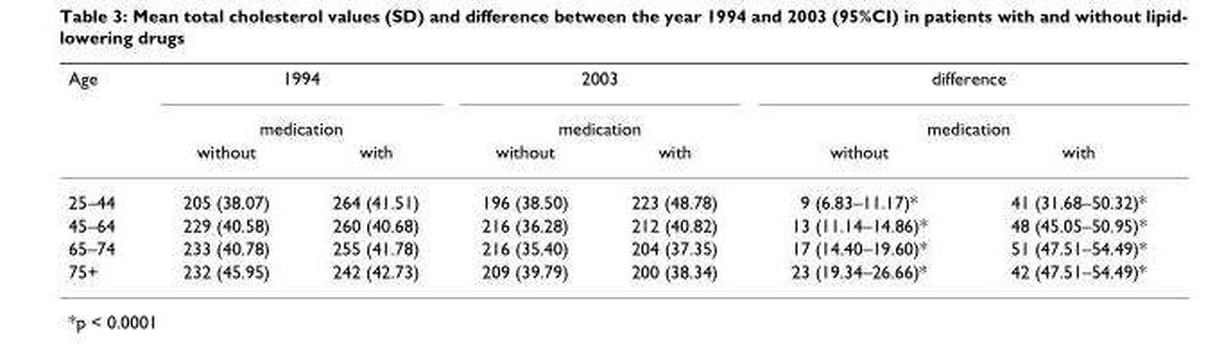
<table><thead><tr><td rowspan="3">Age</td><td rowspan="2" colspan="2">1994 medication</td><td rowspan="2" colspan="2">2003 medication</td><td rowspan="2" colspan="2">difference medication</td></tr><tr></tr><tr><td>without</td><td>with</td><td>without</td><td>with</td><td>without</td><td>with</td></tr></thead><tbody><tr><td>25–44</td><td>205 (38.07)</td><td>264 (41.51)</td><td>196 (38.50)</td><td>223 (48.78)</td><td>9 (6.83–11.17)*</td><td>41 (31.68–50.32)*</td></tr><tr><td>45–64</td><td>229 (40.58)</td><td>260 (40.68)</td><td>216 (36.28)</td><td>212 (40.82)</td><td>13 (11.14–14.86)*</td><td>48 (45.05–50.95)*</td></tr><tr><td>65–74</td><td>233 (40.78)</td><td>255 (41.78)</td><td>216 (35.40)</td><td>204 (37.35)</td><td>17 (14.40–19.60)*</td><td>51 (47.51–54.49)*</td></tr><tr><td>75+</td><td>232 (45.95)</td><td>242 (42.73)</td><td>209 (39.79)</td><td>200 (38.34)</td><td>23 (19.34–26.66)*</td><td>42 (47.51–54.49)*</td></tr></tbody></table>